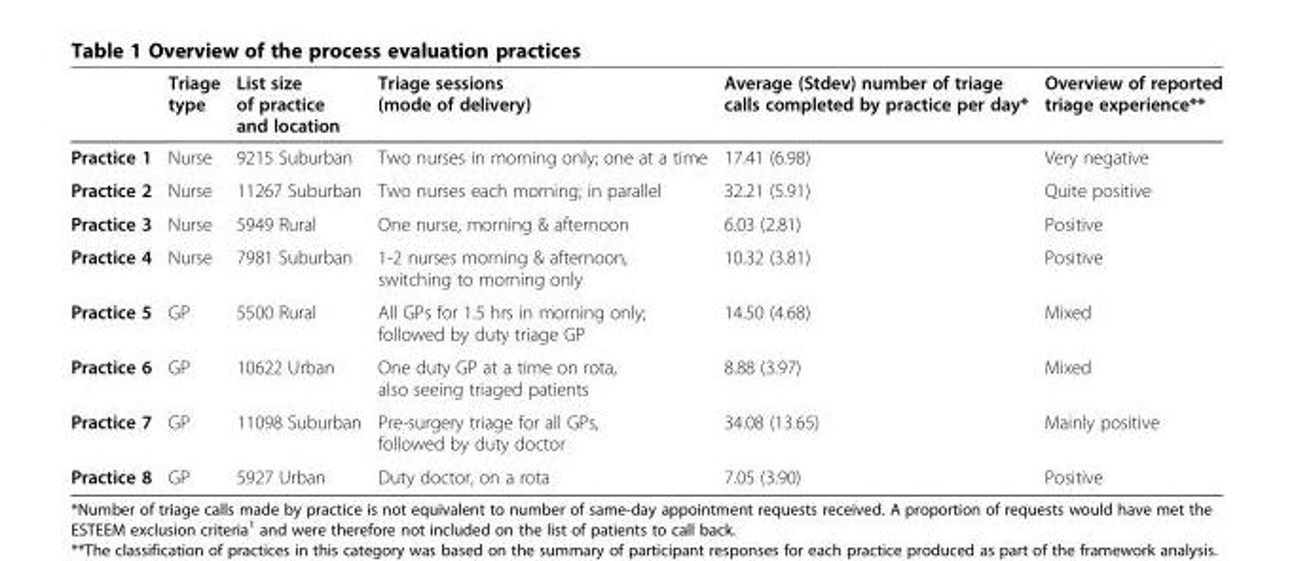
<table><thead><tr><td></td><td>Triage type</td><td>List size of practice and location</td><td>Triage sessions (mode of delivery)</td><td>Average (Stdev) number of triage calls completed by practice per day*</td><td>Overview of reported triage experience**</td></tr></thead><tbody><tr><td>Practice 1</td><td>Nurse</td><td>9215 Suburban</td><td>Two nurses in morning only; one at a time</td><td>17.41 (6.98)</td><td>Very negative</td></tr><tr><td>Practice 2</td><td>Nurse</td><td>11267 Suburban</td><td>Two nurses each morning; in parallel</td><td>32.21 (5.91)</td><td>Quite positive</td></tr><tr><td>Practice 3</td><td>Nurse</td><td>5949 Rural</td><td>One nurse, morning &amp; afternoon</td><td>6.03 (2.81)</td><td>Positive</td></tr><tr><td>Practice 4</td><td>Nurse</td><td>7981 Suburban</td><td>1-2 nurses morning &amp; afternoon, switching to morning only</td><td>10.32 (3.81)</td><td>Positive</td></tr><tr><td>Practice 5</td><td>GP</td><td>5500 Rural</td><td>All GPs for 1.5 hrs in morning only; followed by duty triage GP</td><td>14.50 (4.68)</td><td>Mixed</td></tr><tr><td>Practice 6</td><td>GP</td><td>10622 Urban</td><td>One duty GP at a time on rota, also seeing triaged patients</td><td>8.88 (3.97)</td><td>Mixed</td></tr><tr><td>Practice 7</td><td>GP</td><td>11098 Suburban</td><td>Pre-surgery triage for all GPs, followed by duty doctor</td><td>34.08 (13.65)</td><td>Mainly positive</td></tr><tr><td>Practice 8</td><td>GP</td><td>5927 Urban</td><td>Duty doctor, on a rota</td><td>7.05 (3.90)</td><td>Positive</td></tr></tbody></table>